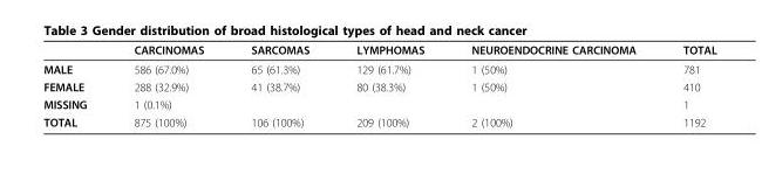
<table><thead><tr><td></td><td>CARCINOMAS</td><td>SARCOMAS</td><td>LYMPHOMAS</td><td>NEUROENDOCRINE CARCINOMA</td><td>TOTAL</td></tr></thead><tbody><tr><td>MALE</td><td>586 (67.0%)</td><td>65 (61.3%)</td><td>129 (61.7%)</td><td>1 (50%)</td><td>781</td></tr><tr><td>FEMALE</td><td>288 (32.9%)</td><td>41 (38.7%)</td><td>80 (38.3%)</td><td>1 (50%)</td><td>410</td></tr><tr><td>MISSING</td><td>1 (0.1%)</td><td></td><td></td><td></td><td>1</td></tr><tr><td>TOTAL</td><td>875 (100%)</td><td>106 (100%)</td><td>209 (100%)</td><td>2 (100%)</td><td>1192</td></tr></tbody></table>